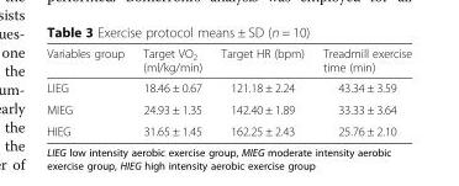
<table><thead><tr><td>Variables group</td><td>Target VO<sub>2</sub> (ml/kg/min)</td><td>Target HR (bpm)</td><td>Treadmill exercise time (min)</td></tr></thead><tbody><tr><td>LIEG</td><td>18.46 ± 0.67</td><td>121.18 ± 2.24</td><td>43.34 ± 3.59</td></tr><tr><td>MIEG</td><td>24.93 ± 1.35</td><td>142.40 ± 1.89</td><td>33.33 ± 3.64</td></tr><tr><td>HIEG</td><td>31.65 ± 1.45</td><td>162.25 ± 2.43</td><td>25.76 ± 2.10</td></tr></tbody></table>